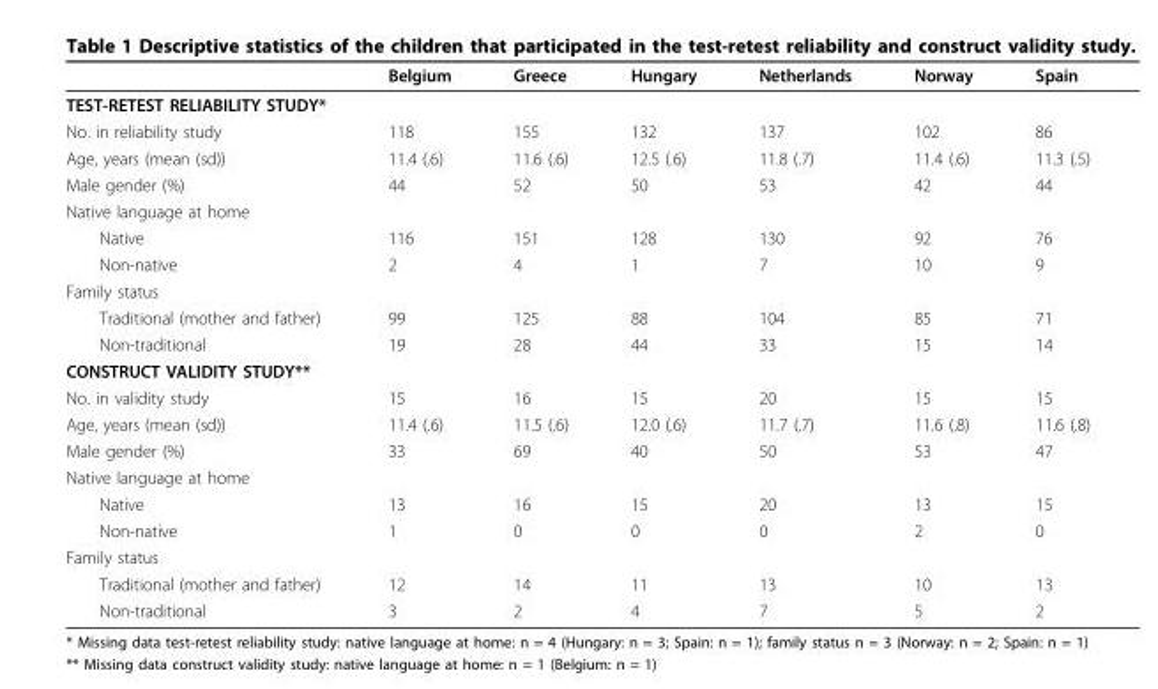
<table><thead><tr><td></td><td>Belgium</td><td>Greece</td><td>Hungary</td><td>Netherlands</td><td>Norway</td><td>Spain</td></tr></thead><tbody><tr><td colspan="7">TEST-RETEST RELIABILITY STUDY*</td></tr><tr><td>No. in reliability study</td><td>118</td><td>155</td><td>132</td><td>137</td><td>102</td><td>86</td></tr><tr><td>Age, years (mean (sd))</td><td>11.4 (.6)</td><td>11.6 (.6)</td><td>12.5 (.6)</td><td>11.8 (.7)</td><td>11.4 (.6)</td><td>11.3 (.5)</td></tr><tr><td>Male gender (%)</td><td>44</td><td>52</td><td>50</td><td>53</td><td>42</td><td>44</td></tr><tr><td colspan="7">Native language at home</td></tr><tr><td>Native</td><td>116</td><td>151</td><td>128</td><td>130</td><td>92</td><td>76</td></tr><tr><td>Non-native</td><td>2</td><td>4</td><td>1</td><td>7</td><td>10</td><td>9</td></tr><tr><td colspan="7">Family status</td></tr><tr><td>Traditional (mother and father)</td><td>99</td><td>125</td><td>88</td><td>104</td><td>85</td><td>71</td></tr><tr><td>Non-traditional</td><td>19</td><td>28</td><td>44</td><td>33</td><td>15</td><td>14</td></tr><tr><td colspan="7">CONSTRUCT VALIDITY STUDY**</td></tr><tr><td>No. in validity study</td><td>15</td><td>16</td><td>15</td><td>20</td><td>15</td><td>15</td></tr><tr><td>Age, years (mean (sd))</td><td>11.4 (.6)</td><td>11.5 (.6)</td><td>12.0 (.6)</td><td>11.7 (.7)</td><td>11.6 (.8)</td><td>11.6 (.8)</td></tr><tr><td>Male gender (%)</td><td>33</td><td>69</td><td>40</td><td>50</td><td>53</td><td>47</td></tr><tr><td colspan="7">Native language at home</td></tr><tr><td>Native</td><td>13</td><td>16</td><td>15</td><td>20</td><td>13</td><td>15</td></tr><tr><td>Non-native</td><td>1</td><td>0</td><td>0</td><td>0</td><td>2</td><td>0</td></tr><tr><td colspan="7">Family status</td></tr><tr><td>Traditional (mother and father)</td><td>12</td><td>14</td><td>11</td><td>13</td><td>10</td><td>13</td></tr><tr><td>Non-traditional</td><td>3</td><td>2</td><td>4</td><td>7</td><td>5</td><td>2</td></tr></tbody></table>